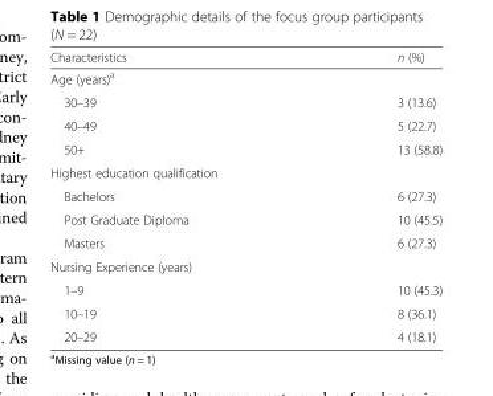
<table><thead><tr><td>Characteristics</td><td>n (%)</td></tr></thead><tbody><tr><td colspan="2">Age (years)<sup>a</sup></td></tr><tr><td>30–39</td><td>3 (13.6)</td></tr><tr><td>40–49</td><td>5 (22.7)</td></tr><tr><td>50+</td><td>13 (58.8)</td></tr><tr><td colspan="2">Highest education qualification</td></tr><tr><td>Bachelors</td><td>6 (27.3)</td></tr><tr><td>Post Graduate Diploma</td><td>10 (45.5)</td></tr><tr><td>Masters</td><td>6 (27.3)</td></tr><tr><td colspan="2">Nursing Experience (years)</td></tr><tr><td>1–9</td><td>10 (45.3)</td></tr><tr><td>10–19</td><td>8 (36.1)</td></tr><tr><td>20–29</td><td>4 (18.1)</td></tr></tbody></table>